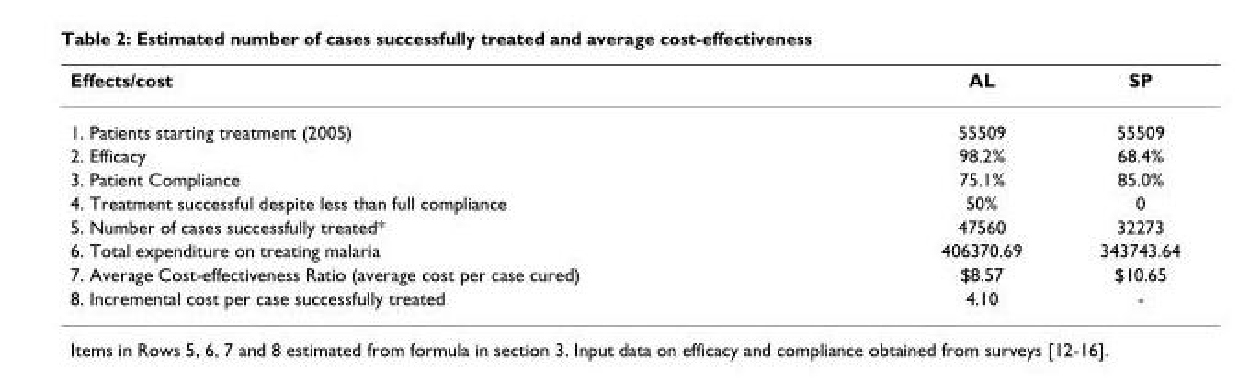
<table><thead><tr><td>Effects/cost</td><td>AL</td><td>SP</td></tr></thead><tbody><tr><td>1. Patients starting treatment (2005)</td><td>55509</td><td>55509</td></tr><tr><td>2. Efficacy</td><td>98.2%</td><td>68.4%</td></tr><tr><td>3. Patient Compliance</td><td>75.1%</td><td>85.0%</td></tr><tr><td>4. Treatment successful despite less than full compliance</td><td>50%</td><td>0</td></tr><tr><td>5. Number of cases successfully treated*</td><td>47560</td><td>32273</td></tr><tr><td>6. Total expenditure on treating malaria</td><td>406370.69</td><td>343743.64</td></tr><tr><td>7. Average Cost-effectiveness Ratio (average cost per case cured)</td><td>$8.57</td><td>$10.65</td></tr><tr><td>8. Incremental cost per case successfully treated</td><td>4.10</td><td>-</td></tr></tbody></table>